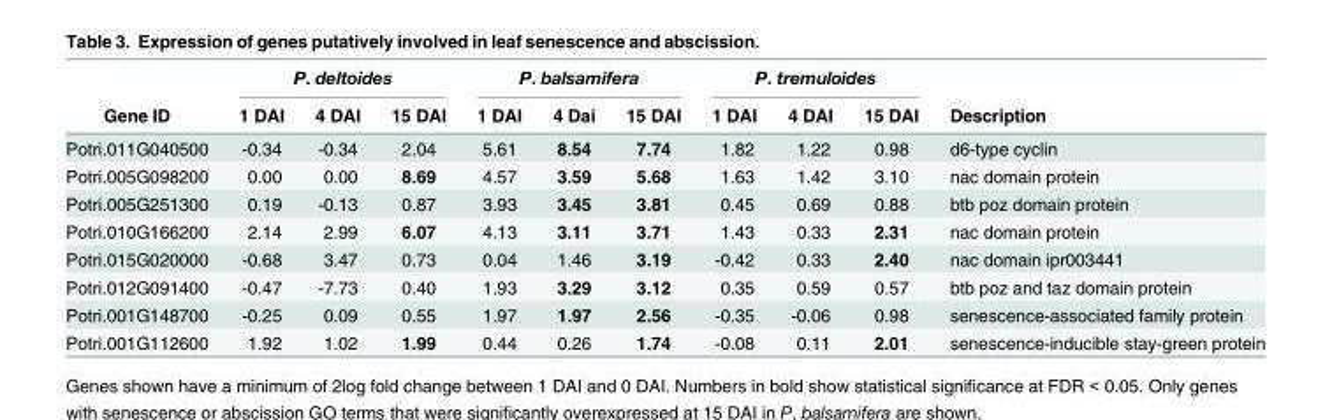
<table><thead><tr><td rowspan="2">Gene ID</td><td colspan="3">P. deltoides</td><td colspan="3">P. balsamifera</td><td colspan="3">P. tremuloides</td><td rowspan="2">Description</td></tr><tr><td>1 DAI</td><td>4 DAI</td><td>15 DAI</td><td>1 DAI</td><td>4 Dai</td><td>15 DAI</td><td>1 DAI</td><td>4 DAI</td><td>15 DAI</td></tr></thead><tbody><tr><td>Potri.011G040500</td><td>-0.34</td><td>-0.34</td><td>2.04</td><td>5.61</td><td>8.54</td><td>7.74</td><td>1.82</td><td>1.22</td><td>0.98</td><td>d6-type cyclin</td></tr><tr><td>Potri.005G098200</td><td>0.00</td><td>0.00</td><td>8.69</td><td>4.57</td><td>3.59</td><td>5.68</td><td>1.63</td><td>1.42</td><td>3.10</td><td>nac domain protein</td></tr><tr><td>Potri.005G251300</td><td>0.19</td><td>-0.13</td><td>0.87</td><td>3.93</td><td>3.45</td><td>3.81</td><td>0.45</td><td>0.69</td><td>0.88</td><td>btb poz domain protein</td></tr><tr><td>Potri.010G166200</td><td>2.14</td><td>2.99</td><td>6.07</td><td>4.13</td><td>3.11</td><td>3.71</td><td>1.43</td><td>0.33</td><td>2.31</td><td>nac domain protein</td></tr><tr><td>Potri.015G020000</td><td>-0.68</td><td>3.47</td><td>0.73</td><td>0.04</td><td>1.46</td><td>3.19</td><td>-0.42</td><td>0.33</td><td>2.40</td><td>nac domain ipr003441</td></tr><tr><td>Potri.012G091400</td><td>-0.47</td><td>-7.73</td><td>0.40</td><td>1.93</td><td>3.29</td><td>3.12</td><td>0.35</td><td>0.59</td><td>0.57</td><td>btb poz and taz domain protein</td></tr><tr><td>Potri.001G148700</td><td>-0.25</td><td>0.09</td><td>0.55</td><td>1.97</td><td>1.97</td><td>2.56</td><td>-0.35</td><td>-0.06</td><td>0.98</td><td>senescence-associated family protein</td></tr><tr><td>Potri.001G112600</td><td>1.92</td><td>1.02</td><td>1.99</td><td>0.44</td><td>0.26</td><td>1.74</td><td>-0.08</td><td>0.11</td><td>2.01</td><td>senescence-inducible stay-green protein</td></tr></tbody></table>